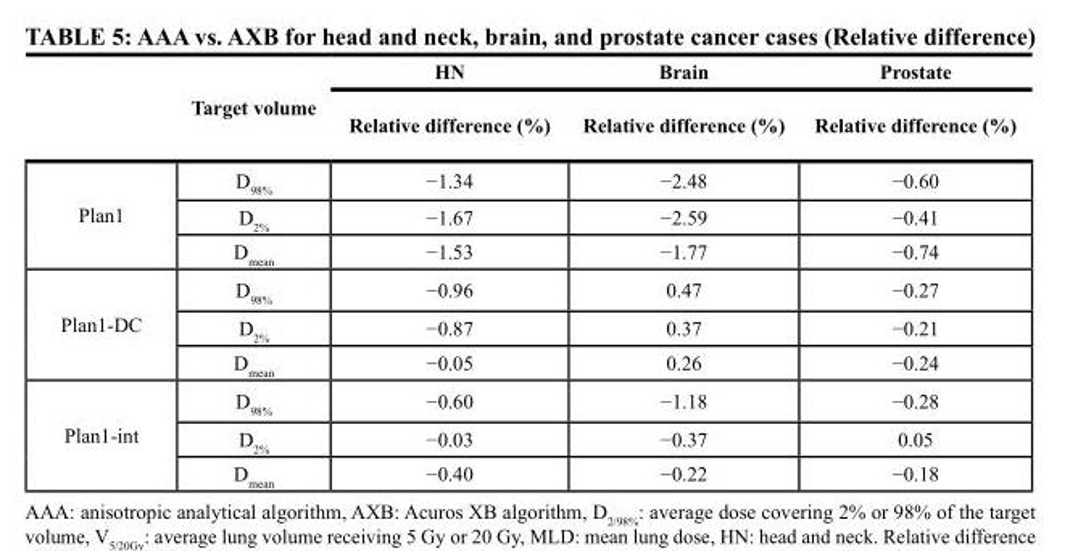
<table><thead><tr><td rowspan="2"></td><td rowspan="2">Target volume</td><td rowspan="2">HN Relative difference (%)</td><td rowspan="2">Brain Relative difference (%)</td><td rowspan="2">Prostate Relative difference (%)</td></tr><tr></tr></thead><tbody><tr><td rowspan="3">Plan1</td><td>D<sub>98%</sub></td><td>−1.34</td><td>−2.48</td><td>−0.60</td></tr><tr><td>D<sub>2%</sub></td><td>−1.67</td><td>−2.59</td><td>−0.41</td></tr><tr><td>D<sub>mean</sub></td><td>−1.53</td><td>−1.77</td><td>−0.74</td></tr><tr><td rowspan="3">Plan1-DC</td><td>D<sub>98%</sub></td><td>−0.96</td><td>0.47</td><td>−0.27</td></tr><tr><td>D<sub>2%</sub></td><td>−0.87</td><td>0.37</td><td>−0.21</td></tr><tr><td>D<sub>mean</sub></td><td>−0.05</td><td>0.26</td><td>−0.24</td></tr><tr><td rowspan="3">Plan1-int</td><td>D<sub>98%</sub></td><td>−0.60</td><td>−1.18</td><td>−0.28</td></tr><tr><td>D<sub>2%</sub></td><td>−0.03</td><td>−0.37</td><td>0.05</td></tr><tr><td>D<sub>mean</sub></td><td>−0.40</td><td>−0.22</td><td>−0.18</td></tr></tbody></table>